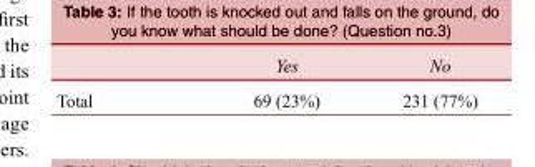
<table><thead><tr><td></td><td>Yes</td><td>No</td></tr></thead><tbody><tr><td>Total</td><td>69 (23%)</td><td>231 (77%)</td></tr></tbody></table>